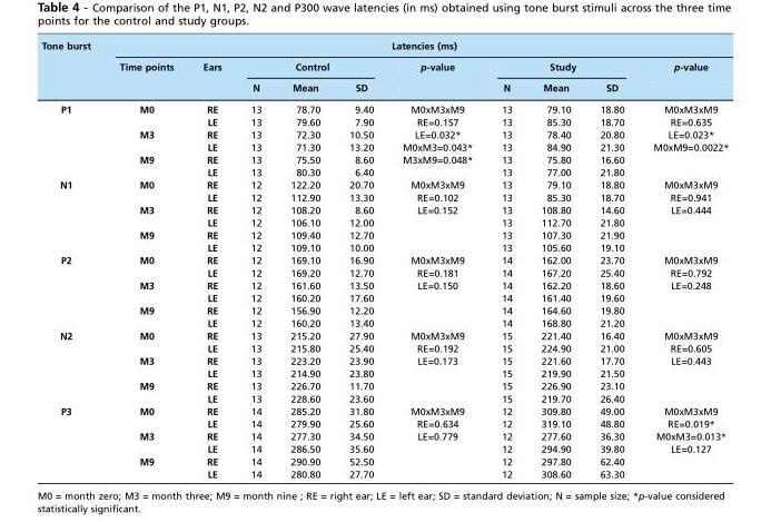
<table><thead><tr><td rowspan="3">Tone burst</td><td colspan="10">Latencies (ms)</td></tr><tr><td rowspan="2">Time points</td><td rowspan="2">Ears</td><td colspan="3">Control</td><td rowspan="2">p-value</td><td colspan="3">Study</td><td rowspan="2">p-value</td></tr><tr><td>N</td><td>Mean</td><td>SD</td><td>N</td><td>Mean</td><td>SD</td></tr></thead><tbody><tr><td rowspan="6">P1</td><td rowspan="2">M0</td><td>RE</td><td>13</td><td>78.70</td><td>9.40</td><td>M0xM3xM9</td><td>13</td><td>79.10</td><td>18.80</td><td>M0xM3xM9</td></tr><tr><td>LE</td><td>13</td><td>79.60</td><td>7.90</td><td>RE=0.157</td><td>13</td><td>85.30</td><td>18.70</td><td>RE=0.635</td></tr><tr><td rowspan="2">M3</td><td>RE</td><td>13</td><td>72.30</td><td>10.50</td><td>LE=0.032*</td><td>13</td><td>78.40</td><td>20.80</td><td>LE=0.023*</td></tr><tr><td>LE</td><td>13</td><td>71.30</td><td>13.20</td><td>M0xM3=0.043*</td><td>13</td><td>84.90</td><td>21.30</td><td>M0xM9=0.0022*</td></tr><tr><td rowspan="2">M9</td><td>RE</td><td>13</td><td>75.50</td><td>8.60</td><td>M3xM9=0.048*</td><td>13</td><td>75.80</td><td>16.60</td><td></td></tr><tr><td>LE</td><td>13</td><td>80.30</td><td>6.40</td><td></td><td>13</td><td>77.00</td><td>21.80</td><td></td></tr><tr><td rowspan="6">N1</td><td rowspan="2">M0</td><td>RE</td><td>12</td><td>122.20</td><td>20.70</td><td>M0xM3xM9</td><td>13</td><td>79.10</td><td>18.80</td><td>M0xM3xM9</td></tr><tr><td>LE</td><td>12</td><td>112.90</td><td>13.30</td><td>RE=0.102</td><td>13</td><td>85.30</td><td>18.70</td><td>RE=0.941</td></tr><tr><td rowspan="2">M3</td><td>RE</td><td>12</td><td>108.20</td><td>8.60</td><td>LE=0.152</td><td>13</td><td>108.80</td><td>14.60</td><td>LE=0.444</td></tr><tr><td>LE</td><td>12</td><td>106.10</td><td>12.00</td><td></td><td>13</td><td>112.70</td><td>21.80</td><td></td></tr><tr><td rowspan="2">M9</td><td>RE</td><td>12</td><td>109.40</td><td>12.70</td><td></td><td>13</td><td>107.30</td><td>21.90</td><td></td></tr><tr><td>LE</td><td>12</td><td>109.10</td><td>10.00</td><td></td><td>13</td><td>105.60</td><td>19.10</td><td></td></tr><tr><td rowspan="6">P2</td><td rowspan="2">M0</td><td>RE</td><td>12</td><td>169.10</td><td>16.90</td><td>M0xM3xM9</td><td>14</td><td>162.00</td><td>23.70</td><td>M0xM3xM9</td></tr><tr><td>LE</td><td>12</td><td>169.20</td><td>12.70</td><td>RE=0.181</td><td>14</td><td>167.20</td><td>25.40</td><td>RE=0.792</td></tr><tr><td rowspan="2">M3</td><td>RE</td><td>12</td><td>161.60</td><td>13.50</td><td>LE=0.150</td><td>14</td><td>162.20</td><td>18.60</td><td>LE=0.248</td></tr><tr><td>LE</td><td>12</td><td>160.20</td><td>17.60</td><td></td><td>14</td><td>161.40</td><td>19.60</td><td></td></tr><tr><td rowspan="2">M9</td><td>RE</td><td>12</td><td>156.90</td><td>12.20</td><td></td><td>14</td><td>164.60</td><td>19.80</td><td></td></tr><tr><td>LE</td><td>12</td><td>160.20</td><td>13.40</td><td></td><td>14</td><td>168.80</td><td>21.20</td><td></td></tr><tr><td rowspan="6">N2</td><td>M0</td><td>RE</td><td>13</td><td>215.20</td><td>27.90</td><td>M0xM3xM9</td><td>15</td><td>221.40</td><td>16.40</td><td>M0xM3xM9</td></tr><tr><td></td><td>LE</td><td>13</td><td>215.80</td><td>25.40</td><td>RE=0.192</td><td>15</td><td>224.90</td><td>21.00</td><td>RE=0.605</td></tr><tr><td>M3</td><td>RE</td><td>13</td><td>223.20</td><td>23.90</td><td>LE=0.173</td><td>15</td><td>221.60</td><td>17.70</td><td>LE=0.443</td></tr><tr><td></td><td>LE</td><td>13</td><td>214.90</td><td>23.80</td><td></td><td>15</td><td>219.90</td><td>21.50</td><td></td></tr><tr><td>M9</td><td>RE</td><td>13</td><td>226.70</td><td>11.70</td><td></td><td>15</td><td>226.90</td><td>23.10</td><td></td></tr><tr><td></td><td>LE</td><td>13</td><td>228.60</td><td>23.60</td><td></td><td>15</td><td>219.70</td><td>26.40</td><td></td></tr><tr><td rowspan="6">P3</td><td>M0</td><td>RE</td><td>14</td><td>285.20</td><td>31.80</td><td>M0xM3xM9</td><td>12</td><td>309.80</td><td>49.00</td><td>M0xM3xM9</td></tr><tr><td></td><td>LE</td><td>14</td><td>279.90</td><td>25.60</td><td>RE=0.634</td><td>12</td><td>319.10</td><td>48.80</td><td>RE=0.019*</td></tr><tr><td>M3</td><td>RE</td><td>14</td><td>277.30</td><td>34.50</td><td>LE=0.779</td><td>12</td><td>277.60</td><td>36.30</td><td>M0xM3=0.013*</td></tr><tr><td></td><td>LE</td><td>14</td><td>286.50</td><td>35.60</td><td></td><td>12</td><td>294.90</td><td>39.80</td><td>LE=0.127</td></tr><tr><td>M9</td><td>RE</td><td>14</td><td>290.90</td><td>52.50</td><td></td><td>12</td><td>297.80</td><td>62.40</td><td></td></tr><tr><td></td><td>LE</td><td>14</td><td>280.80</td><td>27.70</td><td></td><td>12</td><td>308.60</td><td>63.30</td><td></td></tr></tbody></table>